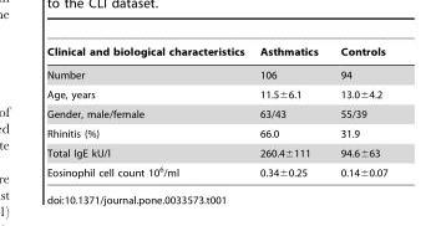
<table><thead><tr><td>Clinical and biological characteristics</td><td>Asthmatics</td><td>Controls</td></tr></thead><tbody><tr><td>Number</td><td>106</td><td>94</td></tr><tr><td>Age, years</td><td>11.5±6.1</td><td>13.0±4.2</td></tr><tr><td>Gender, male/female</td><td>63/43</td><td>55/39</td></tr><tr><td>Rhinitis (%)</td><td>66.0</td><td>31.9</td></tr><tr><td>Total IgE kU/l</td><td>260.4±111</td><td>94.6±63</td></tr><tr><td>Eosinophil cell count 10<sup>6</sup>/ml</td><td>0.34±0.25</td><td>0.14±0.07</td></tr></tbody></table>